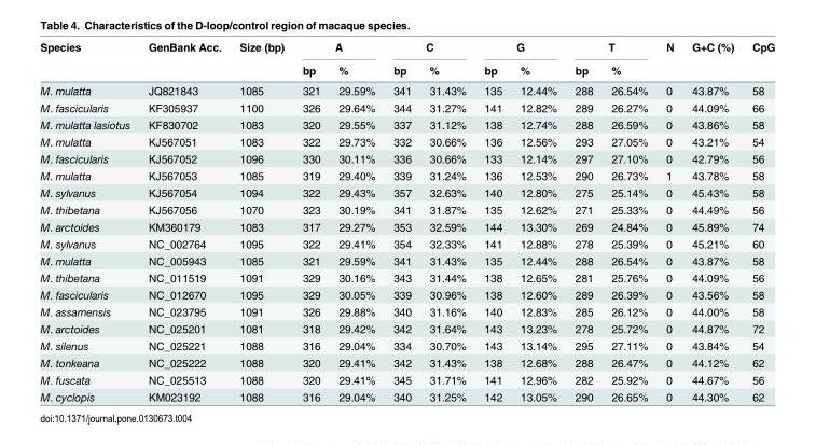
<table><thead><tr><td rowspan="2">Species</td><td rowspan="2">GenBank Acc.</td><td rowspan="2">Size (bp)</td><td colspan="2">A</td><td colspan="2">C</td><td colspan="2">G</td><td colspan="2">T</td><td rowspan="2">N</td><td rowspan="2">G+C (%)</td><td rowspan="2">CpG</td></tr><tr><td>bp</td><td>%</td><td>bp</td><td>%</td><td>bp</td><td>%</td><td>bp</td><td>%</td></tr></thead><tbody><tr><td>M. mulatta</td><td>JQ821843</td><td>1085</td><td>321</td><td>29.59%</td><td>341</td><td>31.43%</td><td>135</td><td>12.44%</td><td>288</td><td>26.54%</td><td>0</td><td>43.87%</td><td>58</td></tr><tr><td>M. fascicularis</td><td>KF305937</td><td>1100</td><td>326</td><td>29.64%</td><td>344</td><td>31.27%</td><td>141</td><td>12.82%</td><td>289</td><td>26.27%</td><td>0</td><td>44.09%</td><td>66</td></tr><tr><td>M. mulatta lasiotus</td><td>KF830702</td><td>1083</td><td>320</td><td>29.55%</td><td>337</td><td>31.12%</td><td>138</td><td>12.74%</td><td>288</td><td>26.59%</td><td>0</td><td>43.86%</td><td>58</td></tr><tr><td>M. mulatta</td><td>KJ567051</td><td>1083</td><td>322</td><td>29.73%</td><td>332</td><td>30.66%</td><td>136</td><td>12.56%</td><td>293</td><td>27.05%</td><td>0</td><td>43.21%</td><td>54</td></tr><tr><td>M. fascicularis</td><td>KJ567052</td><td>1096</td><td>330</td><td>30.11%</td><td>336</td><td>30.66%</td><td>133</td><td>12.14%</td><td>297</td><td>27.10%</td><td>0</td><td>42.79%</td><td>56</td></tr><tr><td>M. mulatta</td><td>KJ567053</td><td>1085</td><td>319</td><td>29.40%</td><td>339</td><td>31.24%</td><td>136</td><td>12.53%</td><td>290</td><td>26.73%</td><td>1</td><td>43.78%</td><td>58</td></tr><tr><td>M. sylvanus</td><td>KJ567054</td><td>1094</td><td>322</td><td>29.43%</td><td>357</td><td>32.63%</td><td>140</td><td>12.80%</td><td>275</td><td>25.14%</td><td>0</td><td>45.43%</td><td>58</td></tr><tr><td>M. thibetana</td><td>KJ567056</td><td>1070</td><td>323</td><td>30.19%</td><td>341</td><td>31.87%</td><td>135</td><td>12.62%</td><td>271</td><td>25.33%</td><td>0</td><td>44.49%</td><td>56</td></tr><tr><td>M. arctoides</td><td>KM360179</td><td>1083</td><td>317</td><td>29.27%</td><td>353</td><td>32.59%</td><td>144</td><td>13.30%</td><td>269</td><td>24.84%</td><td>0</td><td>45.89%</td><td>74</td></tr><tr><td>M. sylvanus</td><td>NC_002764</td><td>1095</td><td>322</td><td>29.41%</td><td>354</td><td>32.33%</td><td>141</td><td>12.88%</td><td>278</td><td>25.39%</td><td>0</td><td>45.21%</td><td>60</td></tr><tr><td>M. mulatta</td><td>NC_005943</td><td>1085</td><td>321</td><td>29.59%</td><td>341</td><td>31.43%</td><td>135</td><td>12.44%</td><td>288</td><td>26.54%</td><td>0</td><td>43.87%</td><td>58</td></tr><tr><td>M. thibetana</td><td>NC_011519</td><td>1091</td><td>329</td><td>30.16%</td><td>343</td><td>31.44%</td><td>138</td><td>12.65%</td><td>281</td><td>25.76%</td><td>0</td><td>44.09%</td><td>56</td></tr><tr><td>M. fascicularis</td><td>NC_012670</td><td>1095</td><td>329</td><td>30.05%</td><td>339</td><td>30.96%</td><td>138</td><td>12.60%</td><td>289</td><td>26.39%</td><td>0</td><td>43.56%</td><td>58</td></tr><tr><td>M. assamensis</td><td>NC_023795</td><td>1091</td><td>326</td><td>29.88%</td><td>340</td><td>31.16%</td><td>140</td><td>12.83%</td><td>285</td><td>26.12%</td><td>0</td><td>44.00%</td><td>58</td></tr><tr><td>M. arctoides</td><td>NC_025201</td><td>1081</td><td>318</td><td>29.42%</td><td>342</td><td>31.64%</td><td>143</td><td>13.23%</td><td>278</td><td>25.72%</td><td>0</td><td>44.87%</td><td>72</td></tr><tr><td>M. silenus</td><td>NC_025221</td><td>1088</td><td>316</td><td>29.04%</td><td>334</td><td>30.70%</td><td>143</td><td>13.14%</td><td>295</td><td>27.11%</td><td>0</td><td>43.84%</td><td>54</td></tr><tr><td>M. tonkeana</td><td>NC_025222</td><td>1088</td><td>320</td><td>29.41%</td><td>342</td><td>31.43%</td><td>138</td><td>12.68%</td><td>288</td><td>26.47%</td><td>0</td><td>44.12%</td><td>62</td></tr><tr><td>M. fuscata</td><td>NC_025513</td><td>1088</td><td>320</td><td>29.41%</td><td>345</td><td>31.71%</td><td>141</td><td>12.96%</td><td>282</td><td>25.92%</td><td>0</td><td>44.67%</td><td>56</td></tr><tr><td>M. cyclopis</td><td>KM023192</td><td>1088</td><td>316</td><td>29.04%</td><td>340</td><td>31.25%</td><td>142</td><td>13.05%</td><td>290</td><td>26.65%</td><td>0</td><td>44.30%</td><td>62</td></tr></tbody></table>